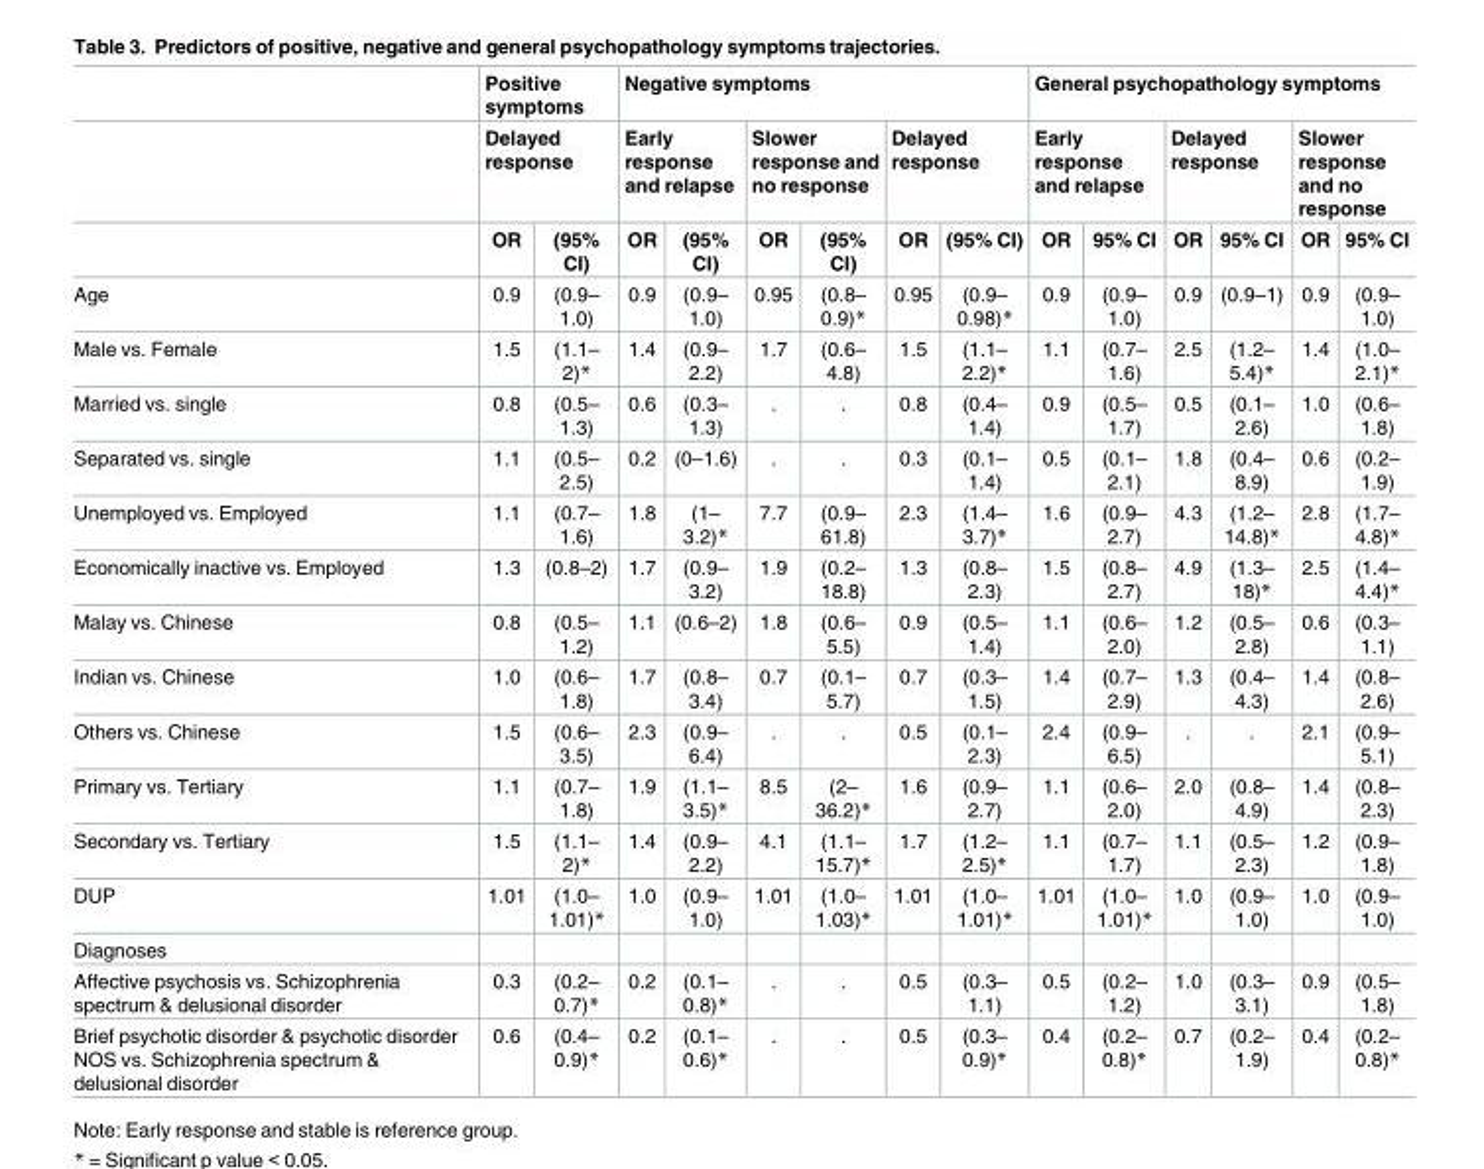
<table><thead><tr><td rowspan="3"></td><td rowspan="2" colspan="2">Positive symptoms Delayed response</td><td colspan="6">Negative symptoms</td><td colspan="6">General psychopathology symptoms</td></tr><tr><td colspan="2">Early response and relapse</td><td colspan="2">Slower response and no response</td><td colspan="2">Delayed response</td><td colspan="2">Early response and relapse</td><td colspan="2">Delayed response</td><td colspan="2">Slower response and no response</td></tr><tr><td>OR</td><td>(95% CI)</td><td>OR</td><td>(95% CI)</td><td>OR</td><td>(95% CI)</td><td>OR</td><td>(95% CI)</td><td>OR</td><td>95% CI</td><td>OR</td><td>95% CI</td><td>OR</td><td>95% CI</td></tr></thead><tbody><tr><td>Age</td><td>0.9</td><td>(0.9– 1.0)</td><td>0.9</td><td>(0.9– 1.0)</td><td>0.95</td><td>(0.8– 0.9)*</td><td>0.95</td><td>(0.9– 0.98)*</td><td>0.9</td><td>(0.9– 1.0)</td><td>0.9</td><td>(0.9–1)</td><td>0.9</td><td>(0.9– 1.0)</td></tr><tr><td>Male vs. Female</td><td>1.5</td><td>(1.1– 2)*</td><td>1.4</td><td>(0.9– 2.2)</td><td>1.7</td><td>(0.6– 4.8)</td><td>1.5</td><td>(1.1– 2.2)*</td><td>1.1</td><td>(0.7– 1.6)</td><td>2.5</td><td>(1.2– 5.4)*</td><td>1.4</td><td>(1.0– 2.1)*</td></tr><tr><td>Married vs. single</td><td>0.8</td><td>(0.5– 1.3)</td><td>0.6</td><td>(0.3– 1.3)</td><td>.</td><td>.</td><td>0.8</td><td>(0.4– 1.4)</td><td>0.9</td><td>(0.5– 1.7)</td><td>0.5</td><td>(0.1– 2.6)</td><td>1.0</td><td>(0.6– 1.8)</td></tr><tr><td>Separated vs. single</td><td>1.1</td><td>(0.5– 2.5)</td><td>0.2</td><td>(0–1.6)</td><td>.</td><td>.</td><td>0.3</td><td>(0.1– 1.4)</td><td>0.5</td><td>(0.1– 2.1)</td><td>1.8</td><td>(0.4– 8.9)</td><td>0.6</td><td>(0.2– 1.9)</td></tr><tr><td>Unemployed vs. Employed</td><td>1.1</td><td>(0.7– 1.6)</td><td>1.8</td><td>(1– 3.2)*</td><td>7.7</td><td>(0.9– 61.8)</td><td>2.3</td><td>(1.4– 3.7)*</td><td>1.6</td><td>(0.9– 2.7)</td><td>4.3</td><td>(1.2– 14.8)*</td><td>2.8</td><td>(1.7– 4.8)*</td></tr><tr><td>Economically inactive vs. Employed</td><td>1.3</td><td>(0.8–2)</td><td>1.7</td><td>(0.9– 3.2)</td><td>1.9</td><td>(0.2– 18.8)</td><td>1.3</td><td>(0.8– 2.3)</td><td>1.5</td><td>(0.8– 2.7)</td><td>4.9</td><td>(1.3– 18)*</td><td>2.5</td><td>(1.4– 4.4)*</td></tr><tr><td>Malay vs. Chinese</td><td>0.8</td><td>(0.5– 1.2)</td><td>1.1</td><td>(0.6–2)</td><td>1.8</td><td>(0.6– 5.5)</td><td>0.9</td><td>(0.5– 1.4)</td><td>1.1</td><td>(0.6– 2.0)</td><td>1.2</td><td>(0.5– 2.8)</td><td>0.6</td><td>(0.3– 1.1)</td></tr><tr><td>Indian vs. Chinese</td><td>1.0</td><td>(0.6– 1.8)</td><td>1.7</td><td>(0.8– 3.4)</td><td>0.7</td><td>(0.1– 5.7)</td><td>0.7</td><td>(0.3– 1.5)</td><td>1.4</td><td>(0.7– 2.9)</td><td>1.3</td><td>(0.4– 4.3)</td><td>1.4</td><td>(0.8– 2.6)</td></tr><tr><td>Others vs. Chinese</td><td>1.5</td><td>(0.6– 3.5)</td><td>2.3</td><td>(0.9– 6.4)</td><td>.</td><td>.</td><td>0.5</td><td>(0.1– 2.3)</td><td>2.4</td><td>(0.9– 6.5)</td><td>.</td><td>.</td><td>2.1</td><td>(0.9– 5.1)</td></tr><tr><td>Primary vs. Tertiary</td><td>1.1</td><td>(0.7– 1.8)</td><td>1.9</td><td>(1.1– 3.5)*</td><td>8.5</td><td>(2– 36.2)*</td><td>1.6</td><td>(0.9– 2.7)</td><td>1.1</td><td>(0.6– 2.0)</td><td>2.0</td><td>(0.8– 4.9)</td><td>1.4</td><td>(0.8– 2.3)</td></tr><tr><td>Secondary vs. Tertiary</td><td>1.5</td><td>(1.1– 2)*</td><td>1.4</td><td>(0.9– 2.2)</td><td>4.1</td><td>(1.1– 15.7)*</td><td>1.7</td><td>(1.2– 2.5)*</td><td>1.1</td><td>(0.7– 1.7)</td><td>1.1</td><td>(0.5– 2.3)</td><td>1.2</td><td>(0.9– 1.8)</td></tr><tr><td>DUP</td><td>1.01</td><td>(1.0– 1.01)*</td><td>1.0</td><td>(0.9– 1.0)</td><td>1.01</td><td>(1.0– 1.03)*</td><td>1.01</td><td>(1.0– 1.01)*</td><td>1.01</td><td>(1.0– 1.01)*</td><td>1.0</td><td>(0.9– 1.0)</td><td>1.0</td><td>(0.9– 1.0)</td></tr><tr><td colspan="15">Diagnoses</td></tr><tr><td>Affective psychosis vs. Schizophrenia spectrum &amp; delusional disorder</td><td>0.3</td><td>(0.2– 0.7)*</td><td>0.2</td><td>(0.1– 0.8)*</td><td>.</td><td>.</td><td>0.5</td><td>(0.3– 1.1)</td><td>0.5</td><td>(0.2– 1.2)</td><td>1.0</td><td>(0.3– 3.1)</td><td>0.9</td><td>(0.5– 1.8)</td></tr><tr><td>Brief psychotic disorder &amp; psychotic disorder NOS vs. Schizophrenia spectrum &amp; delusional disorder</td><td>0.6</td><td>(0.4– 0.9)*</td><td>0.2</td><td>(0.1– 0.6)*</td><td>.</td><td>.</td><td>0.5</td><td>(0.3– 0.9)*</td><td>0.4</td><td>(0.2– 0.8)*</td><td>0.7</td><td>(0.2– 1.9)</td><td>0.4</td><td>(0.2– 0.8)*</td></tr></tbody></table>